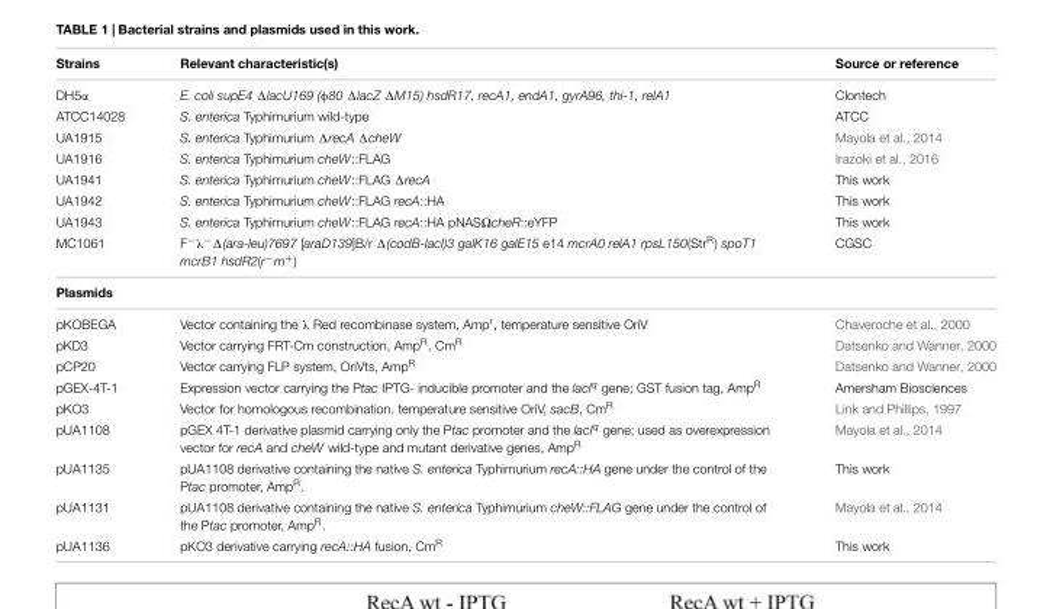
<table><thead><tr><td>Strains</td><td>Relevant characteristic(s)</td><td>Source or reference</td></tr></thead><tbody><tr><td>DH5α</td><td>E. coli supE4 ΔlacU169 (φ80 ΔlacZ ΔM15) hsdR17, recA1, endA1, gyrA96, thi-1, relA1</td><td>Clontech</td></tr><tr><td>ATCC14028</td><td>S. enterica Typhimurium wild-type</td><td>ATCC</td></tr><tr><td>UA1915</td><td>S. enterica Typhimurium ΔrecA ΔcheW</td><td>Mayola et al., 2014</td></tr><tr><td>UA1916</td><td>S. enterica Typhimurium cheW::FLAG</td><td>Irazoki et al., 2016</td></tr><tr><td>UA1941</td><td>S. enterica Typhimurium cheW::FLAG ΔrecA</td><td>This work</td></tr><tr><td>UA1942</td><td>S. enterica Typhimurium cheW::FLAG recA::HA</td><td>This work</td></tr><tr><td>UA1943</td><td>S. enterica Typhimurium cheW::FLAG recA::HA pNASΩcheR::eYFP</td><td>This work</td></tr><tr><td>MC1061</td><td>F<sup>−</sup>λ<sup>−</sup>Δ(ara-leu)7697 [araD139]B/r Δ(codB-lacI)3 galK16 galE15 e14 mcrA0 relA1 rpsL150(Str<sup>R</sup>) spoT1 mcrB1 hsdR2(r<sup>−</sup>m<sup>+</sup>)</td><td>CGSC</td></tr><tr><td colspan="3">Plasmids</td></tr><tr><td>pKOBEGA</td><td>Vector containing the λ Red recombinase system, Ampr, temperature sensitive OriV</td><td>Chaveroche et al., 2000</td></tr><tr><td>pKD3</td><td>Vector carrying FRT-Cm construction, Amp<sup>R</sup>, Cm<sup>R</sup></td><td>Datsenko and Wanner, 2000</td></tr><tr><td>pCP20</td><td>Vector carrying FLP system, OriVts, Amp<sup>R</sup></td><td>Datsenko and Wanner, 2000</td></tr><tr><td>pGEX-4T-1</td><td>Expression vector carrying the Ptac IPTG- inducible promoter and the lacI<sup>q</sup> gene; GST fusion tag, Amp<sup>R</sup></td><td>Amersham Biosciences</td></tr><tr><td>pKO3</td><td>Vector for homologous recombination. temperature sensitive OriV, sacB, Cm<sup>R</sup></td><td>Link and Phillips, 1997</td></tr><tr><td>pUA1108</td><td>pGEX 4T-1 derivative plasmid carrying only the Ptac promoter and the lacI<sup>q</sup> gene; used as overexpression vector for recA and cheW wild-type and mutant derivative genes, Amp<sup>R</sup></td><td>Mayola et al., 2014</td></tr><tr><td>pUA1135</td><td>pUA1108 derivative containing the native S. enterica Typhimurium recA::HA gene under the control of the Ptac promoter, Amp<sup>R</sup>.</td><td>This work</td></tr><tr><td>pUA1131</td><td>pUA1108 derivative containing the native S. enterica Typhimurium cheW::FLAG gene under the control of the Ptac promoter, Amp<sup>R</sup>.</td><td>Mayola et al., 2014</td></tr><tr><td>pUA1136</td><td>pKO3 derivative carrying recA::HA fusion, Cm<sup>R</sup></td><td>This work</td></tr></tbody></table>